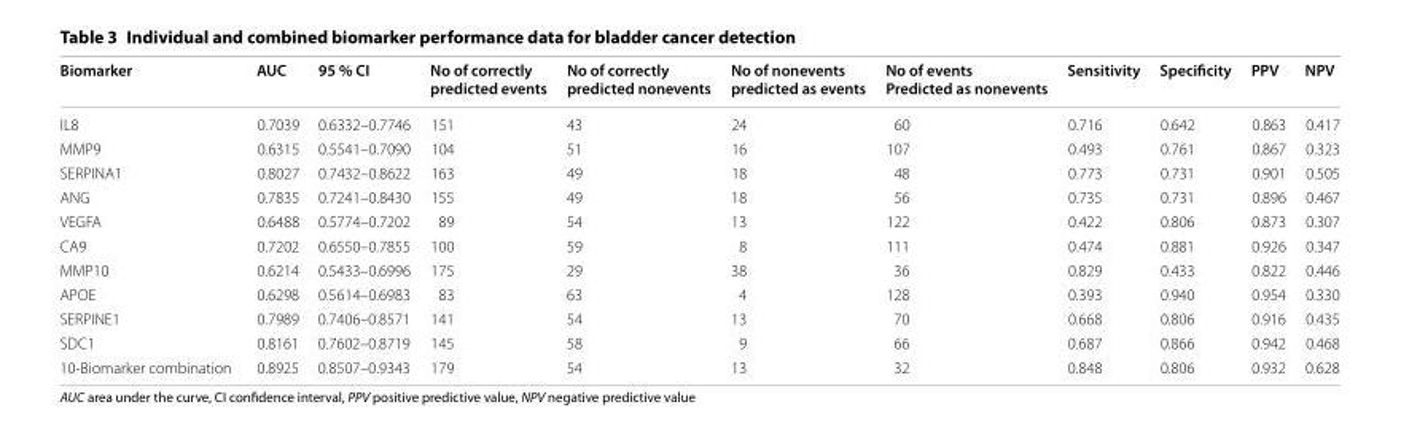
<table><thead><tr><td>Biomarker</td><td>AUC</td><td>95 % CI</td><td>No of correctly predicted events</td><td>No of correctly predicted nonevents</td><td>No of nonevents predicted as events</td><td>No of events Predicted as nonevents</td><td>Sensitivity</td><td>Specificity</td><td>PPV</td><td>NPV</td></tr></thead><tbody><tr><td>IL8</td><td>0.7039</td><td>0.6332–0.7746</td><td>151</td><td>43</td><td>24</td><td>60</td><td>0.716</td><td>0.642</td><td>0.863</td><td>0.417</td></tr><tr><td>MMP9</td><td>0.6315</td><td>0.5541–0.7090</td><td>104</td><td>51</td><td>16</td><td>107</td><td>0.493</td><td>0.761</td><td>0.867</td><td>0.323</td></tr><tr><td>SERPINA1</td><td>0.8027</td><td>0.7432–0.8622</td><td>163</td><td>49</td><td>18</td><td>48</td><td>0.773</td><td>0.731</td><td>0.901</td><td>0.505</td></tr><tr><td>ANG</td><td>0.7835</td><td>0.7241–0.8430</td><td>155</td><td>49</td><td>18</td><td>56</td><td>0.735</td><td>0.731</td><td>0.896</td><td>0.467</td></tr><tr><td>VEGFA</td><td>0.6488</td><td>0.5774–0.7202</td><td>89</td><td>54</td><td>13</td><td>122</td><td>0.422</td><td>0.806</td><td>0.873</td><td>0.307</td></tr><tr><td>CA9</td><td>0.7202</td><td>0.6550–0.7855</td><td>100</td><td>59</td><td>8</td><td>111</td><td>0.474</td><td>0.881</td><td>0.926</td><td>0.347</td></tr><tr><td>MMP10</td><td>0.6214</td><td>0.5433–0.6996</td><td>175</td><td>29</td><td>38</td><td>36</td><td>0.829</td><td>0.433</td><td>0.822</td><td>0.446</td></tr><tr><td>APOE</td><td>0.6298</td><td>0.5614–0.6983</td><td>83</td><td>63</td><td>4</td><td>128</td><td>0.393</td><td>0.940</td><td>0.954</td><td>0.330</td></tr><tr><td>SERPINE1</td><td>0.7989</td><td>0.7406–0.8571</td><td>141</td><td>54</td><td>13</td><td>70</td><td>0.668</td><td>0.806</td><td>0.916</td><td>0.435</td></tr><tr><td>SDC1</td><td>0.8161</td><td>0.7602–0.8719</td><td>145</td><td>58</td><td>9</td><td>66</td><td>0.687</td><td>0.866</td><td>0.942</td><td>0.468</td></tr><tr><td>10-Biomarker combination</td><td>0.8925</td><td>0.8507–0.9343</td><td>179</td><td>54</td><td>13</td><td>32</td><td>0.848</td><td>0.806</td><td>0.932</td><td>0.628</td></tr></tbody></table>